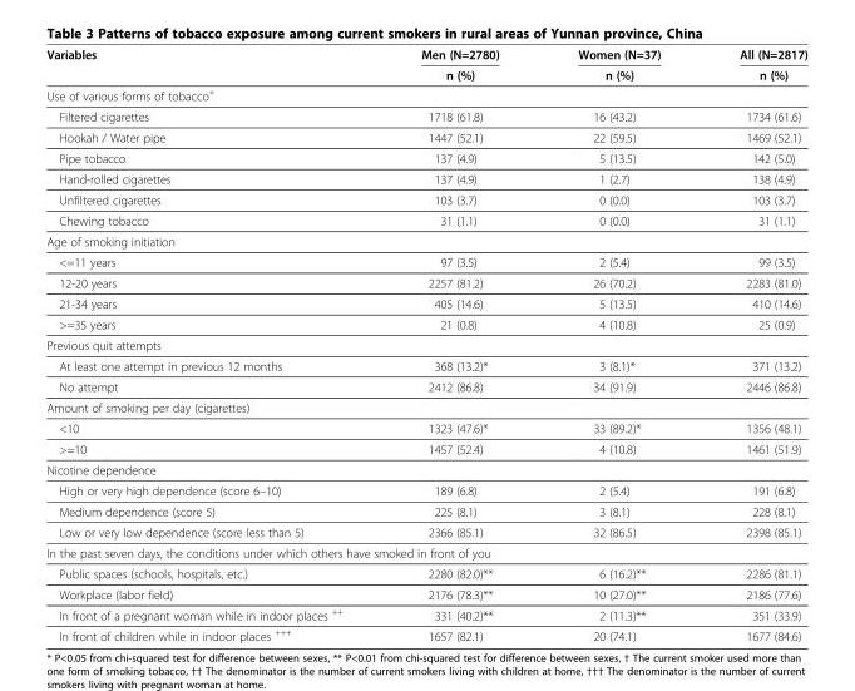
<table><thead><tr><td rowspan="2">Variables</td><td rowspan="2">Men (N=2780) n (%)</td><td rowspan="2">Women (N=37) n (%)</td><td rowspan="2">All (N=2817) n (%)</td></tr><tr></tr></thead><tbody><tr><td colspan="4">Use of various forms of tobacco<sup>+</sup></td></tr><tr><td>Filtered cigarettes</td><td>1718 (61.8)</td><td>16 (43.2)</td><td>1734 (61.6)</td></tr><tr><td>Hookah / Water pipe</td><td>1447 (52.1)</td><td>22 (59.5)</td><td>1469 (52.1)</td></tr><tr><td>Pipe tobacco</td><td>137 (4.9)</td><td>5 (13.5)</td><td>142 (5.0)</td></tr><tr><td>Hand-rolled cigarettes</td><td>137 (4.9)</td><td>1 (2.7)</td><td>138 (4.9)</td></tr><tr><td>Unfiltered cigarettes</td><td>103 (3.7)</td><td>0 (0.0)</td><td>103 (3.7)</td></tr><tr><td>Chewing tobacco</td><td>31 (1.1)</td><td>0 (0.0)</td><td>31 (1.1)</td></tr><tr><td colspan="4">Age of smoking initiation</td></tr><tr><td>&lt;=11 years</td><td>97 (3.5)</td><td>2 (5.4)</td><td>99 (3.5)</td></tr><tr><td>12-20 years</td><td>2257 (81.2)</td><td>26 (70.2)</td><td>2283 (81.0)</td></tr><tr><td>21-34 years</td><td>405 (14.6)</td><td>5 (13.5)</td><td>410 (14.6)</td></tr><tr><td>&gt;=35 years</td><td>21 (0.8)</td><td>4 (10.8)</td><td>25 (0.9)</td></tr><tr><td colspan="4">Previous quit attempts</td></tr><tr><td>At least one attempt in previous 12 months</td><td>368 (13.2)*</td><td>3 (8.1)*</td><td>371 (13.2)</td></tr><tr><td>No attempt</td><td>2412 (86.8)</td><td>34 (91.9)</td><td>2446 (86.8)</td></tr><tr><td colspan="4">Amount of smoking per day (cigarettes)</td></tr><tr><td>&lt;10</td><td>1323 (47.6)*</td><td>33 (89.2)*</td><td>1356 (48.1)</td></tr><tr><td>&gt;=10</td><td>1457 (52.4)</td><td>4 (10.8)</td><td>1461 (51.9)</td></tr><tr><td colspan="4">Nicotine dependence</td></tr><tr><td>High or very high dependence (score 6–10)</td><td>189 (6.8)</td><td>2 (5.4)</td><td>191 (6.8)</td></tr><tr><td>Medium dependence (score 5)</td><td>225 (8.1)</td><td>3 (8.1)</td><td>228 (8.1)</td></tr><tr><td>Low or very low dependence (score less than 5)</td><td>2366 (85.1)</td><td>32 (86.5)</td><td>2398 (85.1)</td></tr><tr><td colspan="4">In the past seven days, the conditions under which others have smoked in front of you</td></tr><tr><td>Public spaces (schools, hospitals, etc.)</td><td>2280 (82.0)**</td><td>6 (16.2)**</td><td>2286 (81.1)</td></tr><tr><td>Workplace (labor field)</td><td>2176 (78.3)**</td><td>10 (27.0)**</td><td>2186 (77.6)</td></tr><tr><td>In front of a pregnant woman while in indoor places <sup>++</sup></td><td>331 (40.2)**</td><td>2 (11.3)**</td><td>351 (33.9)</td></tr><tr><td>In front of children while in indoor places <sup>+++</sup></td><td>1657 (82.1)</td><td>20 (74.1)</td><td>1677 (84.6)</td></tr></tbody></table>